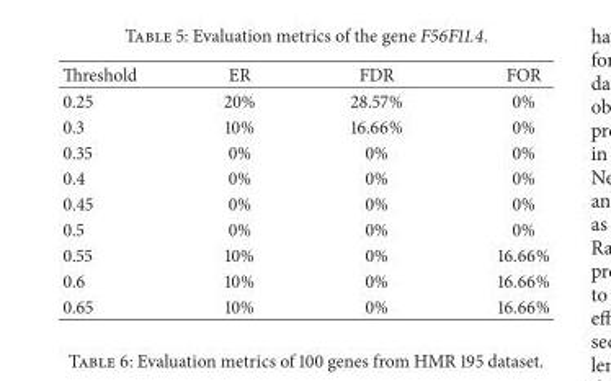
<table><thead><tr><td>Threshold</td><td>ER</td><td>FDR</td><td>FOR</td></tr></thead><tbody><tr><td>0.25</td><td>20%</td><td>28.57%</td><td>0%</td></tr><tr><td>0.3</td><td>10%</td><td>16.66%</td><td>0%</td></tr><tr><td>0.35</td><td>0%</td><td>0%</td><td>0%</td></tr><tr><td>0.4</td><td>0%</td><td>0%</td><td>0%</td></tr><tr><td>0.45</td><td>0%</td><td>0%</td><td>0%</td></tr><tr><td>0.5</td><td>0%</td><td>0%</td><td>0%</td></tr><tr><td>0.55</td><td>10%</td><td>0%</td><td>16.66%</td></tr><tr><td>0.6</td><td>10%</td><td>0%</td><td>16.66%</td></tr><tr><td>0.65</td><td>10%</td><td>0%</td><td>16.66%</td></tr></tbody></table>